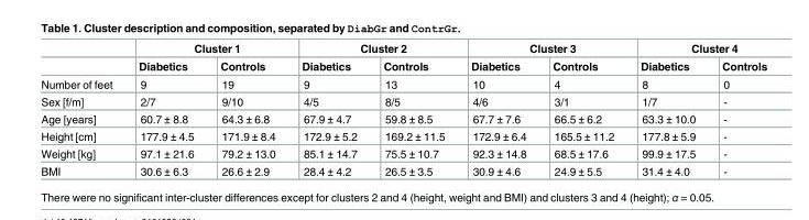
<table><thead><tr><td rowspan="2"></td><td colspan="2">Cluster 1</td><td colspan="2">Cluster 2</td><td colspan="2">Cluster 3</td><td colspan="2">Cluster 4</td></tr><tr><td>Diabetics</td><td>Controls</td><td>Diabetics</td><td>Controls</td><td>Diabetics</td><td>Controls</td><td>Diabetics</td><td>Controls</td></tr></thead><tbody><tr><td>Number of feet</td><td>9</td><td>19</td><td>9</td><td>13</td><td>10</td><td>4</td><td>8</td><td>0</td></tr><tr><td>Sex [f/m]</td><td>2/7</td><td>9/10</td><td>4/5</td><td>8/5</td><td>4/6</td><td>3/1</td><td>1/7</td><td>-</td></tr><tr><td>Age [years]</td><td>60.7 ± 8.8</td><td>64.3 ± 6.8</td><td>67.9 ± 4.7</td><td>59.8 ± 8.5</td><td>67.7 ± 7.6</td><td>66.5 ± 6.2</td><td>63.3 ± 10.0</td><td>-</td></tr><tr><td>Height [cm]</td><td>177.9 ± 4.5</td><td>171.9 ± 8.4</td><td>172.9 ± 5.2</td><td>169.2 ± 11.5</td><td>172.9 ± 6.4</td><td>165.5 ± 11.2</td><td>177.8 ± 5.9</td><td>-</td></tr><tr><td>Weight [kg]</td><td>97.1 ± 21.6</td><td>79.2 ± 13.0</td><td>85.1 ± 14.7</td><td>75.5 ± 10.7</td><td>92.3 ± 14.8</td><td>68.5 ± 17.6</td><td>99.9 ± 17.5</td><td>-</td></tr><tr><td>BMI</td><td>30.6 ± 6.3</td><td>26.6 ± 2.9</td><td>28.4 ± 4.2</td><td>26.5 ± 3.5</td><td>30.9 ± 4.6</td><td>24.9 ± 5.5</td><td>31.4 ± 4.0</td><td>-</td></tr></tbody></table>